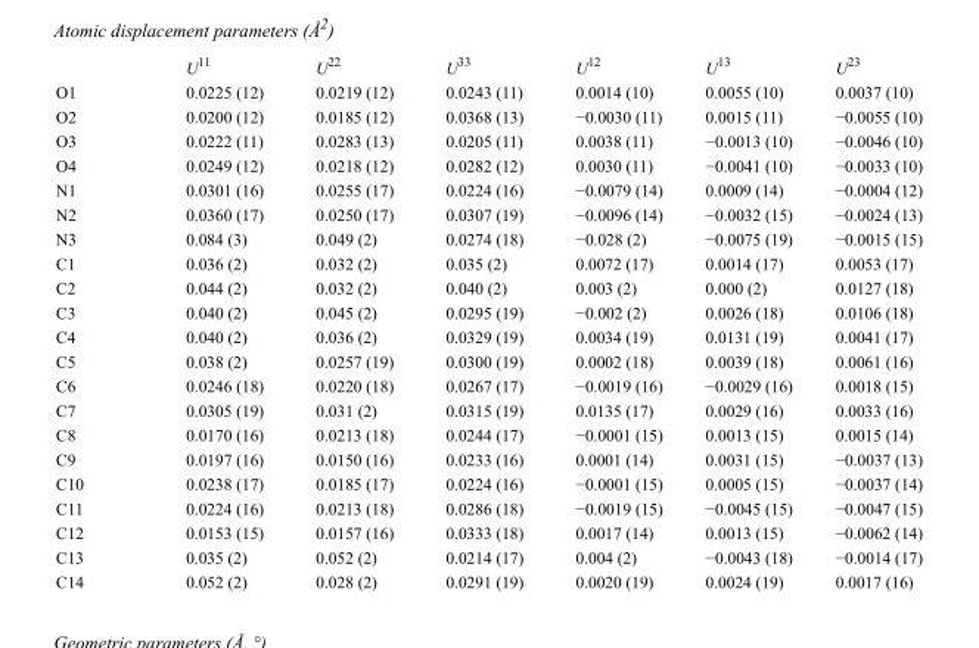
<table><thead><tr><td></td><td>U<sup>11</sup></td><td>U<sup>22</sup></td><td>U<sup>33</sup></td><td>U<sup>12</sup></td><td>U<sup>13</sup></td><td>U<sup>23</sup></td></tr></thead><tbody><tr><td>O1</td><td>0.0225 (12)</td><td>0.0219 (12)</td><td>0.0243 (11)</td><td>0.0014 (10)</td><td>0.0055 (10)</td><td>0.0037 (10)</td></tr><tr><td>O2</td><td>0.0200 (12)</td><td>0.0185 (12)</td><td>0.0368 (13)</td><td>−0.0030 (11)</td><td>0.0015 (11)</td><td>−0.0055 (10)</td></tr><tr><td>O3</td><td>0.0222 (11)</td><td>0.0283 (13)</td><td>0.0205 (11)</td><td>0.0038 (11)</td><td>−0.0013 (10)</td><td>−0.0046 (10)</td></tr><tr><td>O4</td><td>0.0249 (12)</td><td>0.0218 (12)</td><td>0.0282 (12)</td><td>0.0030 (11)</td><td>−0.0041 (10)</td><td>−0.0033 (10)</td></tr><tr><td>N1</td><td>0.0301 (16)</td><td>0.0255 (17)</td><td>0.0224 (16)</td><td>−0.0079 (14)</td><td>0.0009 (14)</td><td>−0.0004 (12)</td></tr><tr><td>N2</td><td>0.0360 (17)</td><td>0.0250 (17)</td><td>0.0307 (19)</td><td>−0.0096 (14)</td><td>−0.0032 (15)</td><td>−0.0024 (13)</td></tr><tr><td>N3</td><td>0.084 (3)</td><td>0.049 (2)</td><td>0.0274 (18)</td><td>−0.028 (2)</td><td>−0.0075 (19)</td><td>−0.0015 (15)</td></tr><tr><td>C1</td><td>0.036 (2)</td><td>0.032 (2)</td><td>0.035 (2)</td><td>0.0072 (17)</td><td>0.0014 (17)</td><td>0.0053 (17)</td></tr><tr><td>C2</td><td>0.044 (2)</td><td>0.032 (2)</td><td>0.040 (2)</td><td>0.003 (2)</td><td>0.000 (2)</td><td>0.0127 (18)</td></tr><tr><td>C3</td><td>0.040 (2)</td><td>0.045 (2)</td><td>0.0295 (19)</td><td>−0.002 (2)</td><td>0.0026 (18)</td><td>0.0106 (18)</td></tr><tr><td>C4</td><td>0.040 (2)</td><td>0.036 (2)</td><td>0.0329 (19)</td><td>0.0034 (19)</td><td>0.0131 (19)</td><td>0.0041 (17)</td></tr><tr><td>C5</td><td>0.038 (2)</td><td>0.0257 (19)</td><td>0.0300 (19)</td><td>0.0002 (18)</td><td>0.0039 (18)</td><td>0.0061 (16)</td></tr><tr><td>C6</td><td>0.0246 (18)</td><td>0.0220 (18)</td><td>0.0267 (17)</td><td>−0.0019 (16)</td><td>−0.0029 (16)</td><td>0.0018 (15)</td></tr><tr><td>C7</td><td>0.0305 (19)</td><td>0.031 (2)</td><td>0.0315 (19)</td><td>0.0135 (17)</td><td>0.0029 (16)</td><td>0.0033 (16)</td></tr><tr><td>C8</td><td>0.0170 (16)</td><td>0.0213 (18)</td><td>0.0244 (17)</td><td>−0.0001 (15)</td><td>0.0013 (15)</td><td>0.0015 (14)</td></tr><tr><td>C9</td><td>0.0197 (16)</td><td>0.0150 (16)</td><td>0.0233 (16)</td><td>0.0001 (14)</td><td>0.0031 (15)</td><td>−0.0037 (13)</td></tr><tr><td>C10</td><td>0.0238 (17)</td><td>0.0185 (17)</td><td>0.0224 (16)</td><td>−0.0001 (15)</td><td>0.0005 (15)</td><td>−0.0037 (14)</td></tr><tr><td>C11</td><td>0.0224 (16)</td><td>0.0213 (18)</td><td>0.0286 (18)</td><td>−0.0019 (15)</td><td>−0.0045 (15)</td><td>−0.0047 (15)</td></tr><tr><td>C12</td><td>0.0153 (15)</td><td>0.0157 (16)</td><td>0.0333 (18)</td><td>0.0017 (14)</td><td>0.0013 (15)</td><td>−0.0062 (14)</td></tr><tr><td>C13</td><td>0.035 (2)</td><td>0.052 (2)</td><td>0.0214 (17)</td><td>0.004 (2)</td><td>−0.0043 (18)</td><td>−0.0014 (17)</td></tr><tr><td>C14</td><td>0.052 (2)</td><td>0.028 (2)</td><td>0.0291 (19)</td><td>0.0020 (19)</td><td>0.0024 (19)</td><td>0.0017 (16)</td></tr></tbody></table>